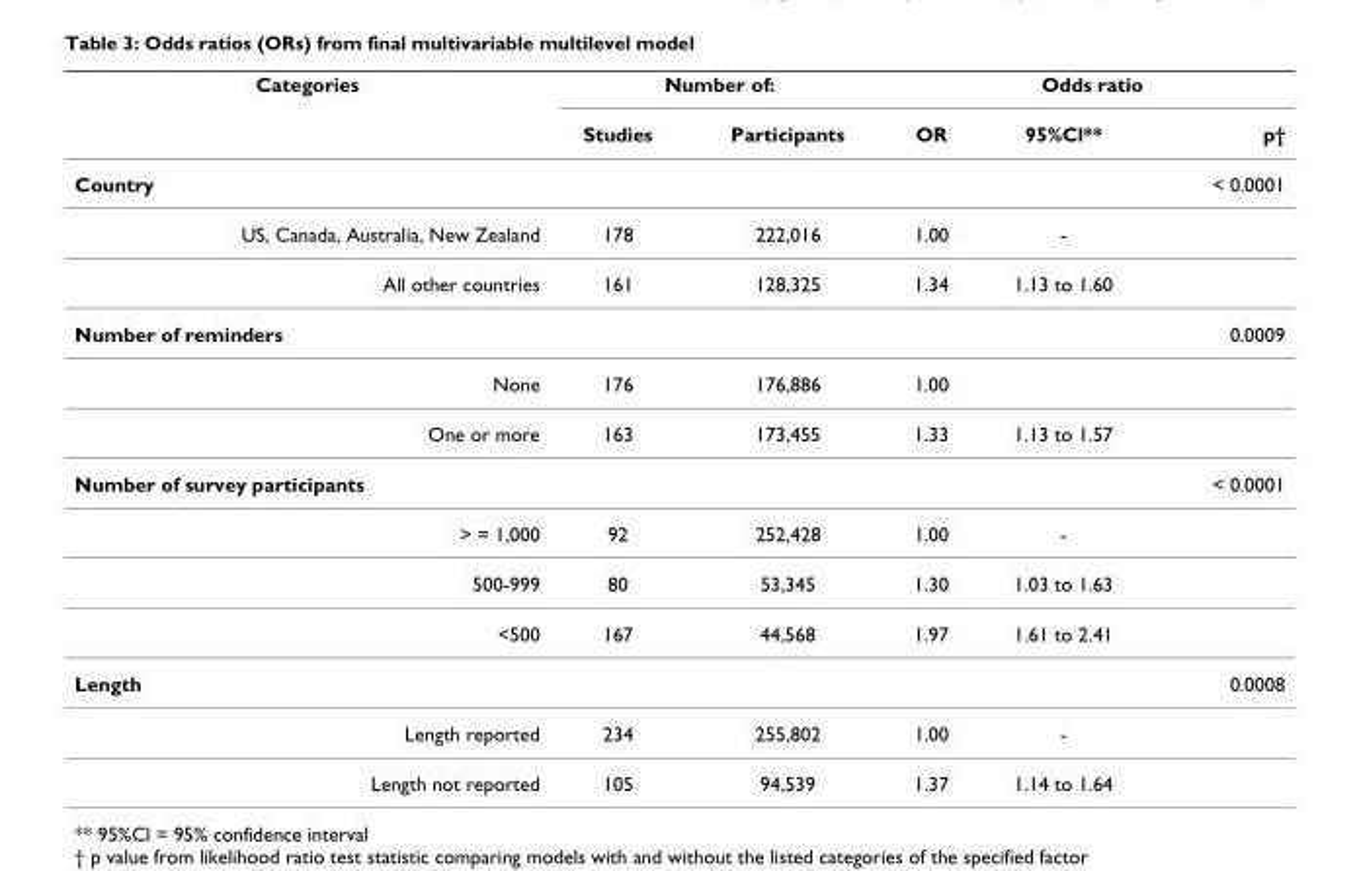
<table><thead><tr><td rowspan="2">Categories</td><td colspan="2">Number of:</td><td colspan="3">Odds ratio</td></tr><tr><td>Studies</td><td>Participants</td><td>OR</td><td>95%Cl**</td><td>p†</td></tr></thead><tbody><tr><td>Country</td><td></td><td></td><td></td><td></td><td>&lt; 0.0001</td></tr><tr><td>US, Canada, Australia, New Zealand</td><td>178</td><td>222,016</td><td>1.00</td><td>-</td><td></td></tr><tr><td>All other countries</td><td>161</td><td>128,325</td><td>1.34</td><td>1.13 to 1.60</td><td></td></tr><tr><td>Number of reminders</td><td></td><td></td><td></td><td></td><td>0.0009</td></tr><tr><td>None</td><td>176</td><td>176,886</td><td>1.00</td><td></td><td></td></tr><tr><td>One or more</td><td>163</td><td>173,455</td><td>1.33</td><td>1.13 to 1.57</td><td></td></tr><tr><td>Number of survey participants</td><td></td><td></td><td></td><td></td><td>&lt; 0.0001</td></tr><tr><td>&gt; = 1,000</td><td>92</td><td>252,428</td><td>1.00</td><td>-</td><td></td></tr><tr><td>500-999</td><td>80</td><td>53,345</td><td>1.30</td><td>1.03 to 1.63</td><td></td></tr><tr><td>&lt;500</td><td>167</td><td>44,568</td><td>1.97</td><td>1.61 to 2.41</td><td></td></tr><tr><td>Length</td><td></td><td></td><td></td><td></td><td>0.0008</td></tr><tr><td>Length reported</td><td>234</td><td>255,802</td><td>1.00</td><td>-</td><td></td></tr><tr><td>Length not reported</td><td>105</td><td>94,539</td><td>1.37</td><td>1.14 to 1.64</td><td></td></tr></tbody></table>